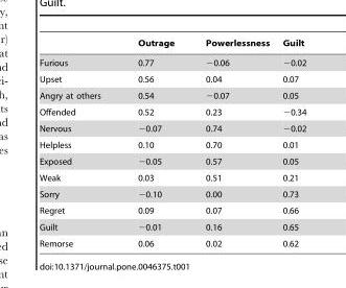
<table><thead><tr><td></td><td>Outrage</td><td>Powerlessness</td><td>Guilt</td></tr></thead><tbody><tr><td>Furious</td><td>0.77</td><td>−0.06</td><td>−0.02</td></tr><tr><td>Upset</td><td>0.56</td><td>0.04</td><td>0.07</td></tr><tr><td>Angry at others</td><td>0.54</td><td>−0.07</td><td>0.05</td></tr><tr><td>Offended</td><td>0.52</td><td>0.23</td><td>−0.34</td></tr><tr><td>Nervous</td><td>−0.07</td><td>0.74</td><td>−0.02</td></tr><tr><td>Helpless</td><td>0.10</td><td>0.70</td><td>0.01</td></tr><tr><td>Exposed</td><td>−0.05</td><td>0.57</td><td>0.05</td></tr><tr><td>Weak</td><td>0.03</td><td>0.51</td><td>0.21</td></tr><tr><td>Sorry</td><td>−0.10</td><td>0.00</td><td>0.73</td></tr><tr><td>Regret</td><td>0.09</td><td>0.07</td><td>0.66</td></tr><tr><td>Guilt</td><td>−0.01</td><td>0.16</td><td>0.65</td></tr><tr><td>Remorse</td><td>0.06</td><td>0.02</td><td>0.62</td></tr></tbody></table>